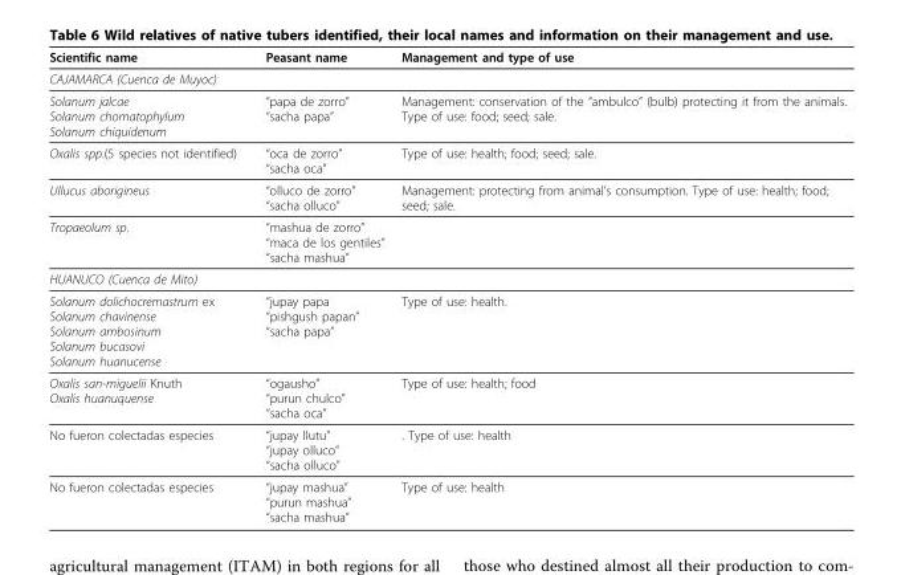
<table><thead><tr><td>Scientific name</td><td>Peasant name</td><td>Management and type of use</td></tr></thead><tbody><tr><td colspan="3">CAJAMARCA (Cuenca de Muyoc)</td></tr><tr><td>Solanum jalcae Solanum chomatophylum Solanum chiquidenum</td><td>“papa de zorro” “sacha papa”</td><td>Management: conservation of the “ambulco” (bulb) protecting it from the animals. Type of use: food; seed; sale.</td></tr><tr><td>Oxalis spp.(5 species not identified)</td><td>“oca de zorro” “sacha oca”</td><td>Type of use: health; food; seed; sale.</td></tr><tr><td>Ullucus aborigineus</td><td>“olluco de zorro” “sacha olluco”</td><td>Management: protecting from animal’s consumption. Type of use: health; food; seed; sale.</td></tr><tr><td>Tropaeolum sp.</td><td>“mashua de zorro” “maca de los gentiles” “sacha mashua”</td><td></td></tr><tr><td colspan="3">HUANUCO (Cuenca de Mito)</td></tr><tr><td>Solanum dolichocremastrum ex Solanum chavinense Solanum ambosinum Solanum bucasovi Solanum huanucense</td><td>“jupay papa “pishgush papan” “sacha papa”</td><td>Type of use: health.</td></tr><tr><td>Oxalis san-miguelii Knuth Oxalis huanuquense</td><td>“ogausho” “purun chulco” “sacha oca”</td><td>Type of use: health; food</td></tr><tr><td>No fueron colectadas especies</td><td>“jupay llutu” “jupay olluco” “sacha olluco”</td><td>. Type of use: health</td></tr><tr><td>No fueron colectadas especies</td><td>“jupay mashua” “purun mashua” “sacha mashua”</td><td>Type of use: health</td></tr></tbody></table>